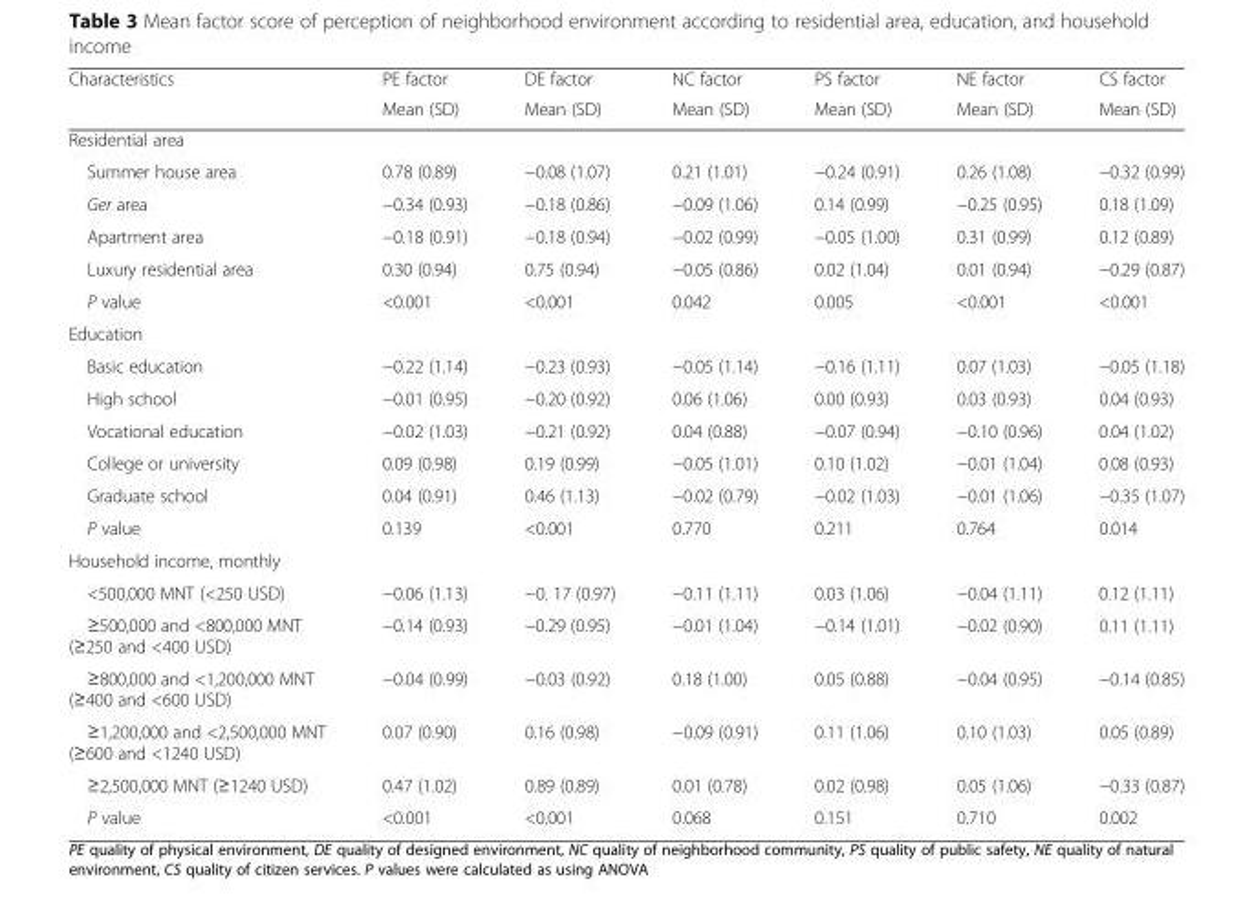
<table><thead><tr><td rowspan="2">Characteristics</td><td rowspan="2">PE factor Mean (SD)</td><td rowspan="2">DE factor Mean (SD)</td><td rowspan="2">NC factor Mean (SD)</td><td rowspan="2">PS factor Mean (SD)</td><td rowspan="2">NE factor Mean (SD)</td><td rowspan="2">CS factor Mean (SD)</td></tr><tr></tr></thead><tbody><tr><td colspan="7">Residential area</td></tr><tr><td>Summer house area</td><td>0.78 (0.89)</td><td>−0.08 (1.07)</td><td>0.21 (1.01)</td><td>−0.24 (0.91)</td><td>0.26 (1.08)</td><td>−0.32 (0.99)</td></tr><tr><td>Ger area</td><td>−0.34 (0.93)</td><td>−0.18 (0.86)</td><td>−0.09 (1.06)</td><td>0.14 (0.99)</td><td>−0.25 (0.95)</td><td>0.18 (1.09)</td></tr><tr><td>Apartment area</td><td>−0.18 (0.91)</td><td>−0.18 (0.94)</td><td>−0.02 (0.99)</td><td>−0.05 (1.00)</td><td>0.31 (0.99)</td><td>0.12 (0.89)</td></tr><tr><td>Luxury residential area</td><td>0.30 (0.94)</td><td>0.75 (0.94)</td><td>−0.05 (0.86)</td><td>0.02 (1.04)</td><td>0.01 (0.94)</td><td>−0.29 (0.87)</td></tr><tr><td>P value</td><td>&lt;0.001</td><td>&lt;0.001</td><td>0.042</td><td>0.005</td><td>&lt;0.001</td><td>&lt;0.001</td></tr><tr><td colspan="7">Education</td></tr><tr><td>Basic education</td><td>−0.22 (1.14)</td><td>−0.23 (0.93)</td><td>−0.05 (1.14)</td><td>−0.16 (1.11)</td><td>0.07 (1.03)</td><td>−0.05 (1.18)</td></tr><tr><td>High school</td><td>−0.01 (0.95)</td><td>−0.20 (0.92)</td><td>0.06 (1.06)</td><td>0.00 (0.93)</td><td>0.03 (0.93)</td><td>0.04 (0.93)</td></tr><tr><td>Vocational education</td><td>−0.02 (1.03)</td><td>−0.21 (0.92)</td><td>0.04 (0.88)</td><td>−0.07 (0.94)</td><td>−0.10 (0.96)</td><td>0.04 (1.02)</td></tr><tr><td>College or university</td><td>0.09 (0.98)</td><td>0.19 (0.99)</td><td>−0.05 (1.01)</td><td>0.10 (1.02)</td><td>−0.01 (1.04)</td><td>0.08 (0.93)</td></tr><tr><td>Graduate school</td><td>0.04 (0.91)</td><td>0.46 (1.13)</td><td>−0.02 (0.79)</td><td>−0.02 (1.03)</td><td>−0.01 (1.06)</td><td>−0.35 (1.07)</td></tr><tr><td>P value</td><td>0.139</td><td>&lt;0.001</td><td>0.770</td><td>0.211</td><td>0.764</td><td>0.014</td></tr><tr><td colspan="7">Household income, monthly</td></tr><tr><td>&lt;500,000 MNT (&lt;250 USD)</td><td>−0.06 (1.13)</td><td>−0. 17 (0.97)</td><td>−0.11 (1.11)</td><td>0.03 (1.06)</td><td>−0.04 (1.11)</td><td>0.12 (1.11)</td></tr><tr><td>≥500,000 and &lt;800,000 MNT (≥250 and &lt;400 USD)</td><td>−0.14 (0.93)</td><td>−0.29 (0.95)</td><td>−0.01 (1.04)</td><td>−0.14 (1.01)</td><td>−0.02 (0.90)</td><td>0.11 (1.11)</td></tr><tr><td>≥800,000 and &lt;1,200,000 MNT (≥400 and &lt;600 USD)</td><td>−0.04 (0.99)</td><td>−0.03 (0.92)</td><td>0.18 (1.00)</td><td>0.05 (0.88)</td><td>−0.04 (0.95)</td><td>−0.14 (0.85)</td></tr><tr><td>≥1,200,000 and &lt;2,500,000 MNT (≥600 and &lt;1240 USD)</td><td>0.07 (0.90)</td><td>0.16 (0.98)</td><td>−0.09 (0.91)</td><td>0.11 (1.06)</td><td>0.10 (1.03)</td><td>0.05 (0.89)</td></tr><tr><td>≥2,500,000 MNT (≥1240 USD)</td><td>0.47 (1.02)</td><td>0.89 (0.89)</td><td>0.01 (0.78)</td><td>0.02 (0.98)</td><td>0.05 (1.06)</td><td>−0.33 (0.87)</td></tr><tr><td>P value</td><td>&lt;0.001</td><td>&lt;0.001</td><td>0.068</td><td>0.151</td><td>0.710</td><td>0.002</td></tr></tbody></table>